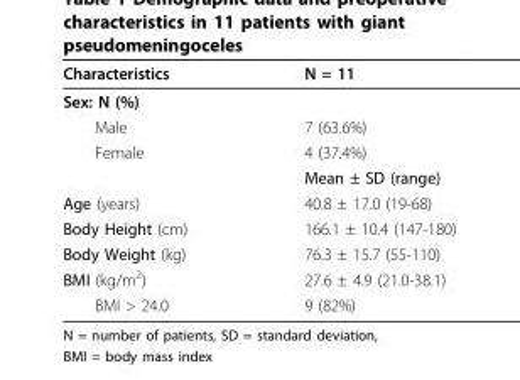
<table><thead><tr><td>Characteristics</td><td>N = 11</td></tr></thead><tbody><tr><td colspan="2">Sex: N (%)</td></tr><tr><td>Male</td><td>7 (63.6%)</td></tr><tr><td rowspan="2">Female</td><td>4 (37.4%)</td></tr><tr><td>Mean ± SD (range)</td></tr><tr><td>Age (years)</td><td>40.8 ± 17.0 (19-68)</td></tr><tr><td>Body Height (cm)</td><td>166.1 ± 10.4 (147-180)</td></tr><tr><td>Body Weight (kg)</td><td>76.3 ± 15.7 (55-110)</td></tr><tr><td>BMI (kg/m<sup>2</sup>)</td><td>27.6 ± 4.9 (21.0-38.1)</td></tr><tr><td>BMI &gt; 24.0</td><td>9 (82%)</td></tr></tbody></table>